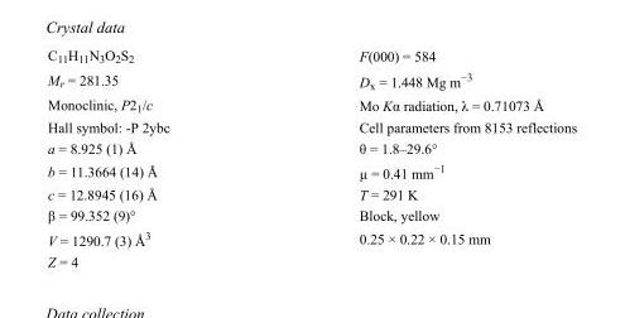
<table><tbody><tr><td>C<sub>11</sub>H<sub>11</sub>N<sub>3</sub>O<sub>2</sub>S<sub>2</sub></td><td>F(000) = 584</td></tr><tr><td>M<sub>r</sub> = 281.35</td><td>D<sub>x</sub> = 1.448 Mg m<sup>−3</sup></td></tr><tr><td>Monoclinic, P2<sub>1</sub>/c</td><td>Mo Kα radiation, λ = 0.71073 Å</td></tr><tr><td>Hall symbol: -P 2ybc</td><td>Cell parameters from 8153 reflections</td></tr><tr><td>a = 8.925 (1) Å</td><td>θ = 1.8–29.6°</td></tr><tr><td>b = 11.3664 (14) Å</td><td>µ = 0.41 mm<sup>−1</sup></td></tr><tr><td>c = 12.8945 (16) Å</td><td>T = 291 K</td></tr><tr><td>β = 99.352 (9)°</td><td>Block, yellow</td></tr><tr><td>V = 1290.7 (3) Å<sup>3</sup></td><td>0.25 × 0.22 × 0.15 mm</td></tr><tr><td>Z = 4</td><td></td></tr></tbody></table>